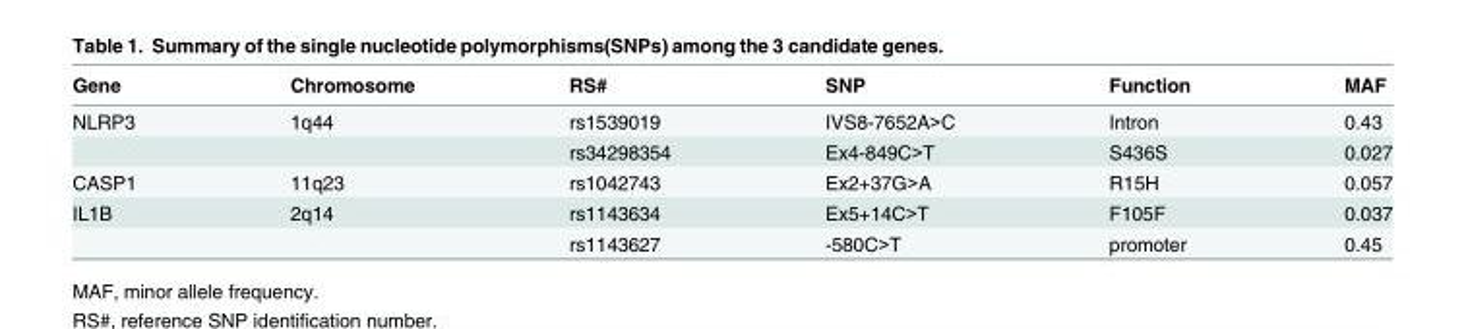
<table><thead><tr><td>Gene</td><td>Chromosome</td><td>RS#</td><td>SNP</td><td>Function</td><td>MAF</td></tr></thead><tbody><tr><td rowspan="2">NLRP3</td><td>1q44</td><td>rs1539019</td><td>IVS8-7652A&gt;C</td><td>Intron</td><td>0.43</td></tr><tr><td></td><td>rs34298354</td><td>Ex4-849C&gt;T</td><td>S436S</td><td>0.027</td></tr><tr><td>CASP1</td><td>11q23</td><td>rs1042743</td><td>Ex2+37G&gt;A</td><td>R15H</td><td>0.057</td></tr><tr><td rowspan="2">IL1B</td><td>2q14</td><td>rs1143634</td><td>Ex5+14C&gt;T</td><td>F105F</td><td>0.037</td></tr><tr><td></td><td>rs1143627</td><td>-580C&gt;T</td><td>promoter</td><td>0.45</td></tr></tbody></table>